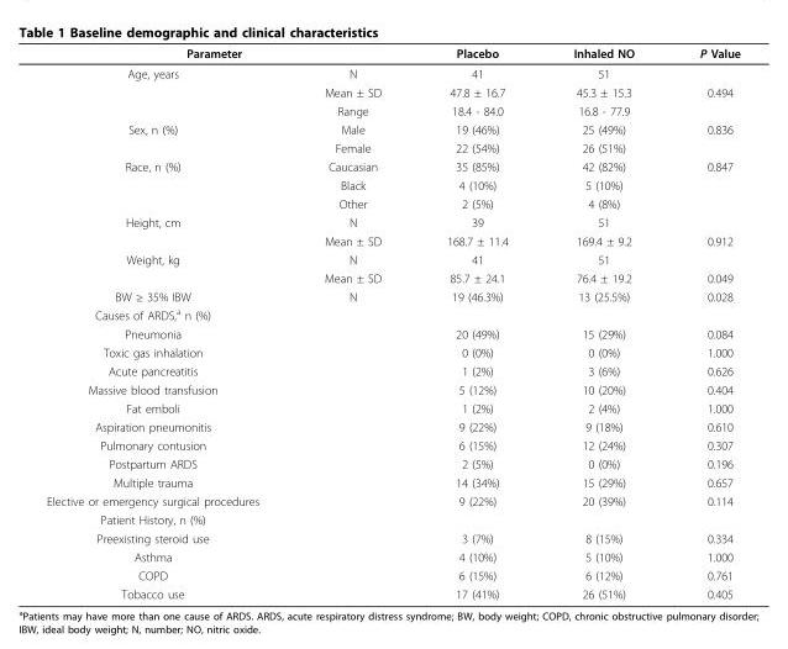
<table><thead><tr><td colspan="2">Parameter</td><td rowspan="2">Placebo 41</td><td rowspan="2">Inhaled NO 51</td><td rowspan="2">P Value</td></tr><tr><td>Age, years</td><td>N</td></tr></thead><tbody><tr><td></td><td>Mean ± SD</td><td>47.8 ± 16.7</td><td>45.3 ± 15.3</td><td>0.494</td></tr><tr><td></td><td>Range</td><td>18.4 - 84.0</td><td>16.8 - 77.9</td><td></td></tr><tr><td rowspan="2">Sex, n (%)</td><td>Male</td><td>19 (46%)</td><td>25 (49%)</td><td>0.836</td></tr><tr><td>Female</td><td>22 (54%)</td><td>26 (51%)</td><td></td></tr><tr><td rowspan="3">Race, n (%)</td><td>Caucasian</td><td>35 (85%)</td><td>42 (82%)</td><td>0.847</td></tr><tr><td>Black</td><td>4 (10%)</td><td>5 (10%)</td><td></td></tr><tr><td>Other</td><td>2 (5%)</td><td>4 (8%)</td><td></td></tr><tr><td rowspan="2">Height, cm</td><td>N</td><td>39</td><td>51</td><td></td></tr><tr><td>Mean ± SD</td><td>168.7 ± 11.4</td><td>169.4 ± 9.2</td><td>0.912</td></tr><tr><td rowspan="2">Weight, kg</td><td>N</td><td>41</td><td>51</td><td></td></tr><tr><td>Mean ± SD</td><td>85.7 ± 24.1</td><td>76.4 ± 19.2</td><td>0.049</td></tr><tr><td>BW ≥ 35% IBW</td><td>N</td><td>19 (46.3%)</td><td>13 (25.5%)</td><td>0.028</td></tr><tr><td colspan="5">Causes of ARDS,<sup>a</sup> n (%)</td></tr><tr><td>Pneumonia</td><td></td><td>20 (49%)</td><td>15 (29%)</td><td>0.084</td></tr><tr><td>Toxic gas inhalation</td><td></td><td>0 (0%)</td><td>0 (0%)</td><td>1.000</td></tr><tr><td>Acute pancreatitis</td><td></td><td>1 (2%)</td><td>3 (6%)</td><td>0.626</td></tr><tr><td>Massive blood transfusion</td><td></td><td>5 (12%)</td><td>10 (20%)</td><td>0.404</td></tr><tr><td>Fat emboli</td><td></td><td>1 (2%)</td><td>2 (4%)</td><td>1.000</td></tr><tr><td>Aspiration pneumonitis</td><td></td><td>9 (22%)</td><td>9 (18%)</td><td>0.610</td></tr><tr><td>Pulmonary contusion</td><td></td><td>6 (15%)</td><td>12 (24%)</td><td>0.307</td></tr><tr><td>Postpartum ARDS</td><td></td><td>2 (5%)</td><td>0 (0%)</td><td>0.196</td></tr><tr><td>Multiple trauma</td><td></td><td>14 (34%)</td><td>15 (29%)</td><td>0.657</td></tr><tr><td>Elective or emergency surgical procedures</td><td></td><td>9 (22%)</td><td>20 (39%)</td><td>0.114</td></tr><tr><td colspan="5">Patient History, n (%)</td></tr><tr><td>Preexisting steroid use</td><td></td><td>3 (7%)</td><td>8 (15%)</td><td>0.334</td></tr><tr><td>Asthma</td><td></td><td>4 (10%)</td><td>5 (10%)</td><td>1.000</td></tr><tr><td>COPD</td><td></td><td>6 (15%)</td><td>6 (12%)</td><td>0.761</td></tr><tr><td>Tobacco use</td><td></td><td>17 (41%)</td><td>26 (51%)</td><td>0.405</td></tr></tbody></table>